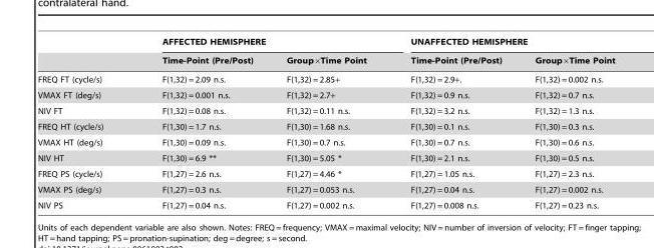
<table><thead><tr><td rowspan="2"></td><td colspan="2">AFFECTED HEMISPHERE</td><td colspan="2">UNAFFECTED HEMISPHERE</td></tr><tr><td>Time-Point (Pre/Post)</td><td>Group×Time Point</td><td>Time-Point (Pre/Post)</td><td>Group×Time Point</td></tr></thead><tbody><tr><td>FREQ FT (cycle/s)</td><td>F(1,32) = 2.09 n.s.</td><td>F(1,32) = 2.85+</td><td>F(1,32) = 2.9+.</td><td>F(1,32) = 0.002 n.s.</td></tr><tr><td>VMAX FT (deg/s)</td><td>F(1,32) = 0.001 n.s.</td><td>F(1,32) = 2.7+</td><td>F(1,32) = 0.9 n.s.</td><td>F(1,32) = 0.7 n.s.</td></tr><tr><td>NIV FT</td><td>F(1,32) = 0.08 n.s.</td><td>F(1,32) = 0.11 n.s.</td><td>F(1,32) = 3.2 n.s.</td><td>F(1,32) = 1.3 n.s.</td></tr><tr><td>FREQ HT (cycle/s)</td><td>F(1,30) = 1.7 n.s.</td><td>F(1,30) = 1.68 n.s.</td><td>F(1,30) = 0.1 n.s.</td><td>F(1,30) = 0.3 n.s.</td></tr><tr><td>VMAX HT (deg/s)</td><td>F(1,30) = 0.09 n.s.</td><td>F(1,30) = 0.7 n.s.</td><td>F(1,30) = 0.7 n.s.</td><td>F(1,30) = 0.6 n.s.</td></tr><tr><td>NIV HT</td><td>F(1,30) = 6.9 **</td><td>F(1,30) = 5.05 *</td><td>F(1,30) = 2.1 n.s.</td><td>F(1,30) = 0.5 n.s.</td></tr><tr><td>FREQ PS (cycle/s)</td><td>F(1,27) = 2.6 n.s.</td><td>F(1,27) = 4.46 *</td><td>F(1,27) = 1.05 n.s.</td><td>F(1,27) = 2.3 n.s.</td></tr><tr><td>VMAX PS (deg/s)</td><td>F(1,27) = 0.3 n.s.</td><td>F(1,27) = 0.053 n.s.</td><td>F(1,27) = 0.04 n.s.</td><td>F(1,27) = 0.002 n.s.</td></tr><tr><td>NIV PS</td><td>F(1,27) = 0.04 n.s.</td><td>F(1,27) = 0.002 n.s.</td><td>F(1,27) = 0.008 n.s.</td><td>F(1,27) = 0.23 n.s.</td></tr></tbody></table>